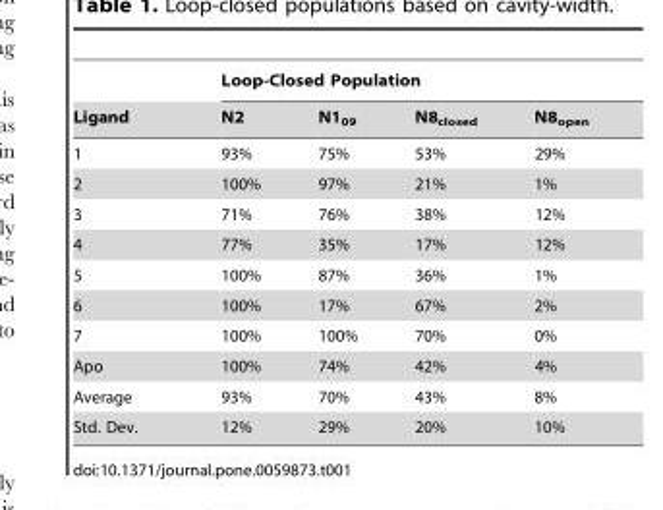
<table><thead><tr><td rowspan="2">Ligand</td><td colspan="4">Loop-Closed Population</td></tr><tr><td>N2</td><td>N1<sub>09</sub></td><td>N8<sub>closed</sub></td><td>N8<sub>open</sub></td></tr></thead><tbody><tr><td>1</td><td>93%</td><td>75%</td><td>53%</td><td>29%</td></tr><tr><td>2</td><td>100%</td><td>97%</td><td>21%</td><td>1%</td></tr><tr><td>3</td><td>71%</td><td>76%</td><td>38%</td><td>12%</td></tr><tr><td>4</td><td>77%</td><td>35%</td><td>17%</td><td>12%</td></tr><tr><td>5</td><td>100%</td><td>87%</td><td>36%</td><td>1%</td></tr><tr><td>6</td><td>100%</td><td>17%</td><td>67%</td><td>2%</td></tr><tr><td>7</td><td>100%</td><td>100%</td><td>70%</td><td>0%</td></tr><tr><td>Apo</td><td>100%</td><td>74%</td><td>42%</td><td>4%</td></tr><tr><td>Average</td><td>93%</td><td>70%</td><td>43%</td><td>8%</td></tr><tr><td>Std. Dev.</td><td>12%</td><td>29%</td><td>20%</td><td>10%</td></tr></tbody></table>